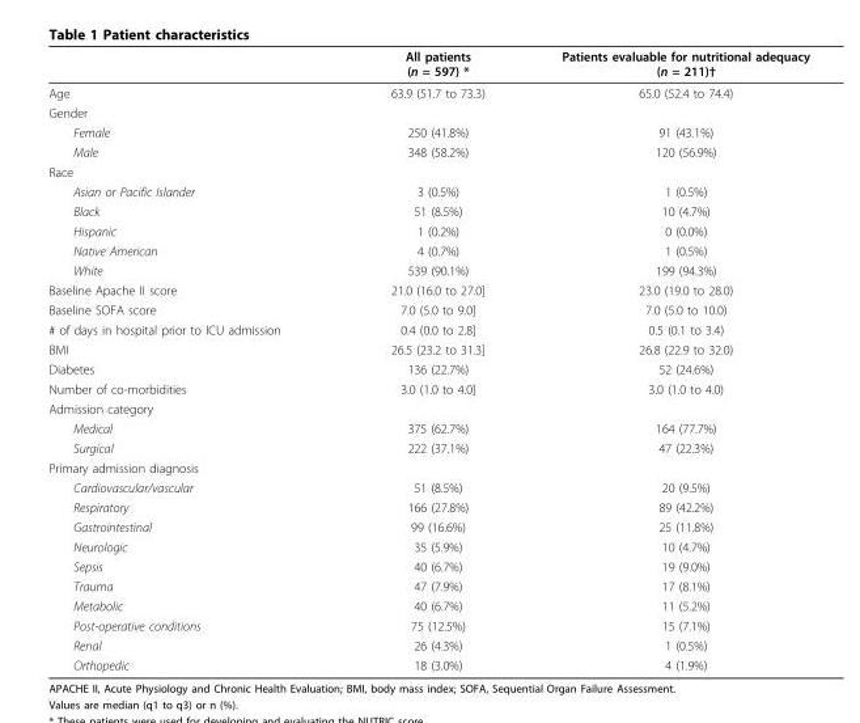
<table><thead><tr><td></td><td>All patients (n = 597) *</td><td>Patients evaluable for nutritional adequacy (n = 211)†</td></tr></thead><tbody><tr><td>Age</td><td>63.9 (51.7 to 73.3)</td><td>65.0 (52.4 to 74.4)</td></tr><tr><td colspan="3">Gender</td></tr><tr><td>Female</td><td>250 (41.8%)</td><td>91 (43.1%)</td></tr><tr><td>Male</td><td>348 (58.2%)</td><td>120 (56.9%)</td></tr><tr><td colspan="3">Race</td></tr><tr><td>Asian or Pacific Islander</td><td>3 (0.5%)</td><td>1 (0.5%)</td></tr><tr><td>Black</td><td>51 (8.5%)</td><td>10 (4.7%)</td></tr><tr><td>Hispanic</td><td>1 (0.2%)</td><td>0 (0.0%)</td></tr><tr><td>Native American</td><td>4 (0.7%)</td><td>1 (0.5%)</td></tr><tr><td>White</td><td>539 (90.1%)</td><td>199 (94.3%)</td></tr><tr><td>Baseline Apache II score</td><td>21.0 (16.0 to 27.0]</td><td>23.0 (19.0 to 28.0)</td></tr><tr><td>Baseline SOFA score</td><td>7.0 (5.0 to 9.0]</td><td>7.0 (5.0 to 10.0)</td></tr><tr><td># of days in hospital prior to ICU admission</td><td>0.4 (0.0 to 2.8]</td><td>0.5 (0.1 to 3.4)</td></tr><tr><td>BMI</td><td>26.5 (23.2 to 31.3]</td><td>26.8 (22.9 to 32.0)</td></tr><tr><td>Diabetes</td><td>136 (22.7%)</td><td>52 (24.6%)</td></tr><tr><td>Number of co-morbidities</td><td>3.0 (1.0 to 4.0]</td><td>3.0 (1.0 to 4.0)</td></tr><tr><td colspan="3">Admission category</td></tr><tr><td>Medical</td><td>375 (62.7%)</td><td>164 (77.7%)</td></tr><tr><td>Surgical</td><td>222 (37.1%)</td><td>47 (22.3%)</td></tr><tr><td colspan="3">Primary admission diagnosis</td></tr><tr><td>Cardiovascular/vascular</td><td>51 (8.5%)</td><td>20 (9.5%)</td></tr><tr><td>Respiratory</td><td>166 (27.8%)</td><td>89 (42.2%)</td></tr><tr><td>Gastrointestinal</td><td>99 (16.6%)</td><td>25 (11.8%)</td></tr><tr><td>Neurologic</td><td>35 (5.9%)</td><td>10 (4.7%)</td></tr><tr><td>Sepsis</td><td>40 (6.7%)</td><td>19 (9.0%)</td></tr><tr><td>Trauma</td><td>47 (7.9%)</td><td>17 (8.1%)</td></tr><tr><td>Metabolic</td><td>40 (6.7%)</td><td>11 (5.2%)</td></tr><tr><td>Post-operative conditions</td><td>75 (12.5%)</td><td>15 (7.1%)</td></tr><tr><td>Renal</td><td>26 (4.3%)</td><td>1 (0.5%)</td></tr><tr><td>Orthopedic</td><td>18 (3.0%)</td><td>4 (1.9%)</td></tr></tbody></table>